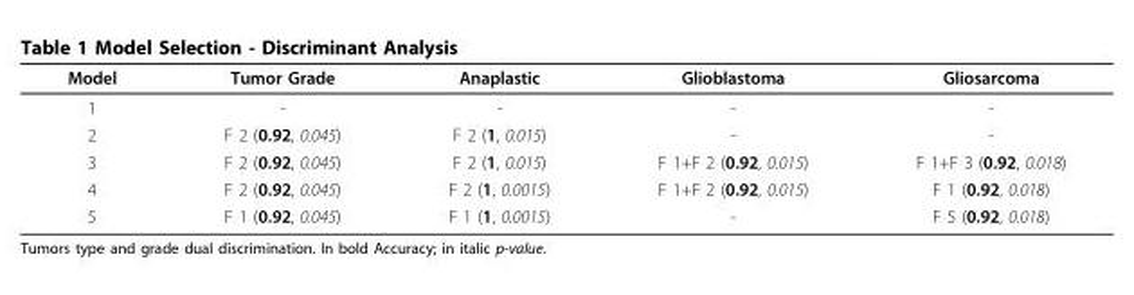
<table><thead><tr><td>Model</td><td>Tumor Grade</td><td>Anaplastic</td><td>Glioblastoma</td><td>Gliosarcoma</td></tr></thead><tbody><tr><td>1</td><td>-</td><td>-</td><td>-</td><td>-</td></tr><tr><td>2</td><td>F 2 (0.92, 0.045)</td><td>F 2 (1, 0.015)</td><td>-</td><td>-</td></tr><tr><td>3</td><td>F 2 (0.92, 0.045)</td><td>F 2 (1, 0.015)</td><td>F 1+F 2 (0.92, 0.015)</td><td>F 1+F 3 (0.92, 0.018)</td></tr><tr><td>4</td><td>F 2 (0.92, 0.045)</td><td>F 2 (1, 0.0015)</td><td>F 1+F 2 (0.92, 0.015)</td><td>F 1 (0.92, 0.018)</td></tr><tr><td>5</td><td>F 1 (0.92, 0.045)</td><td>F 1 (1, 0.0015)</td><td>-</td><td>F 5 (0.92, 0.018)</td></tr></tbody></table>